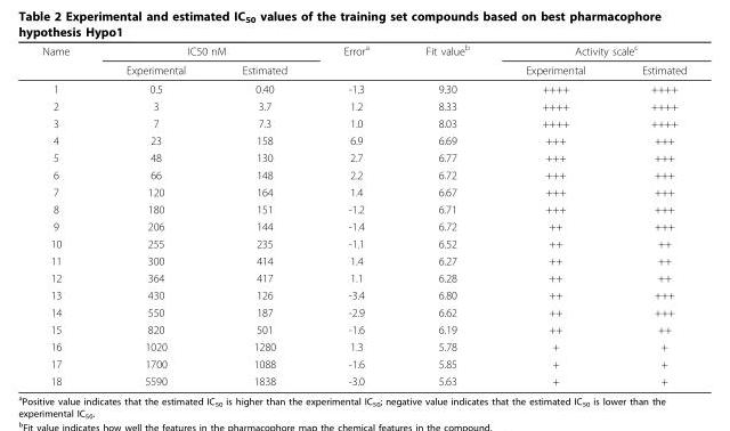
<table><thead><tr><td rowspan="2">Name</td><td colspan="2">IC50 nM</td><td rowspan="2">Error<sup>a</sup></td><td rowspan="2">Fit value<sup>b</sup></td><td colspan="2">Activity scale<sup>c</sup></td></tr><tr><td>Experimental</td><td>Estimated</td><td>Experimental</td><td>Estimated</td></tr></thead><tbody><tr><td>1</td><td>0.5</td><td>0.40</td><td>-1.3</td><td>9.30</td><td>++++</td><td>++++</td></tr><tr><td>2</td><td>3</td><td>3.7</td><td>1.2</td><td>8.33</td><td>++++</td><td>++++</td></tr><tr><td>3</td><td>7</td><td>7.3</td><td>1.0</td><td>8.03</td><td>++++</td><td>++++</td></tr><tr><td>4</td><td>23</td><td>158</td><td>6.9</td><td>6.69</td><td>+++</td><td>+++</td></tr><tr><td>5</td><td>48</td><td>130</td><td>2.7</td><td>6.77</td><td>+++</td><td>+++</td></tr><tr><td>6</td><td>66</td><td>148</td><td>2.2</td><td>6.72</td><td>+++</td><td>+++</td></tr><tr><td>7</td><td>120</td><td>164</td><td>1.4</td><td>6.67</td><td>+++</td><td>+++</td></tr><tr><td>8</td><td>180</td><td>151</td><td>-1.2</td><td>6.71</td><td>+++</td><td>+++</td></tr><tr><td>9</td><td>206</td><td>144</td><td>-1.4</td><td>6.72</td><td>++</td><td>+++</td></tr><tr><td>10</td><td>255</td><td>235</td><td>-1.1</td><td>6.52</td><td>++</td><td>++</td></tr><tr><td>11</td><td>300</td><td>414</td><td>1.4</td><td>6.27</td><td>++</td><td>++</td></tr><tr><td>12</td><td>364</td><td>417</td><td>1.1</td><td>6.28</td><td>++</td><td>++</td></tr><tr><td>13</td><td>430</td><td>126</td><td>-3.4</td><td>6.80</td><td>++</td><td>+++</td></tr><tr><td>14</td><td>550</td><td>187</td><td>-2.9</td><td>6.62</td><td>++</td><td>+++</td></tr><tr><td>15</td><td>820</td><td>501</td><td>-1.6</td><td>6.19</td><td>++</td><td>++</td></tr><tr><td>16</td><td>1020</td><td>1280</td><td>1.3</td><td>5.78</td><td>+</td><td>+</td></tr><tr><td>17</td><td>1700</td><td>1088</td><td>-1.6</td><td>5.85</td><td>+</td><td>+</td></tr><tr><td>18</td><td>5590</td><td>1838</td><td>-3.0</td><td>5.63</td><td>+</td><td>+</td></tr></tbody></table>